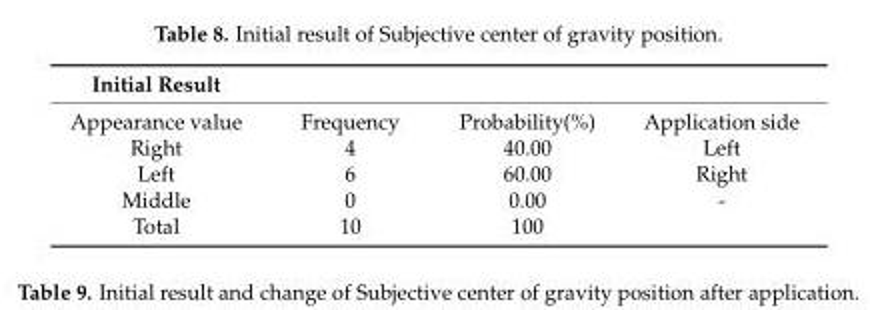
<table><thead><tr><td>Initial Result</td><td></td><td></td><td></td></tr></thead><tbody><tr><td>Appearance value</td><td>Frequency</td><td>Probability(%)</td><td>Application side</td></tr><tr><td>Right</td><td>4</td><td>40.00</td><td>Left</td></tr><tr><td>Left</td><td>6</td><td>60.00</td><td>Right</td></tr><tr><td>Middle</td><td>0</td><td>0.00</td><td>-</td></tr><tr><td>Total</td><td>10</td><td>100</td><td></td></tr></tbody></table>